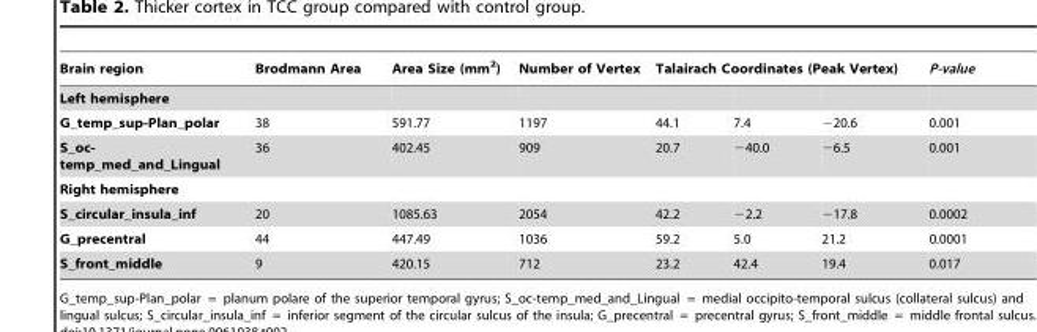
<table><thead><tr><td rowspan="2">Brain region Left hemisphere</td><td rowspan="2">Brodmann Area</td><td rowspan="2">Area Size (mm<sup>2</sup>)</td><td rowspan="2">Number of Vertex</td><td colspan="3">Talairach Coordinates (Peak Vertex)</td><td rowspan="2">P-value</td></tr><tr><td></td><td></td><td></td></tr></thead><tbody><tr><td>G_temp_sup-Plan_polar</td><td>38</td><td>591.77</td><td>1197</td><td>44.1</td><td>7.4</td><td>−20.6</td><td>0.001</td></tr><tr><td>S_oc- temp_med_and_Lingual</td><td>36</td><td>402.45</td><td>909</td><td>20.7</td><td>−40.0</td><td>−6.5</td><td>0.001</td></tr><tr><td colspan="8">Right hemisphere</td></tr><tr><td>S_circular_insula_inf</td><td>20</td><td>1085.63</td><td>2054</td><td>42.2</td><td>−2.2</td><td>−17.8</td><td>0.0002</td></tr><tr><td>G_precentral</td><td>44</td><td>447.49</td><td>1036</td><td>59.2</td><td>5.0</td><td>21.2</td><td>0.0001</td></tr><tr><td>S_front_middle</td><td>9</td><td>420.15</td><td>712</td><td>23.2</td><td>42.4</td><td>19.4</td><td>0.017</td></tr></tbody></table>